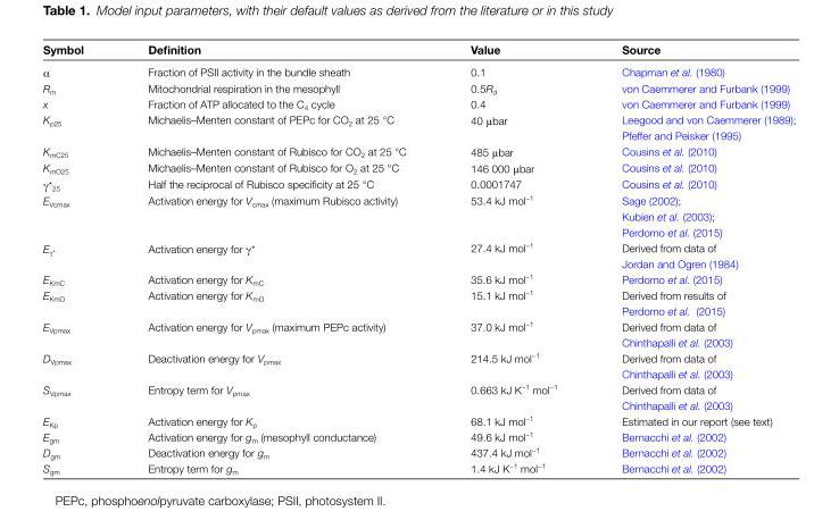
<table><thead><tr><td>Symbol</td><td>Definition</td><td>Value</td><td>Source</td></tr></thead><tbody><tr><td>α</td><td>Fraction of PSII activity in the bundle sheath</td><td>0.1</td><td>Chapman et al. (1980)</td></tr><tr><td>R<sub>m</sub></td><td>Mitochondrial respiration in the mesophyll</td><td>0.5R<sub>d</sub></td><td>von Caemmerer and Furbank (1999)</td></tr><tr><td>x</td><td>Fraction of ATP allocated to the C<sub>4</sub> cycle</td><td>0.4</td><td>von Caemmerer and Furbank (1999)</td></tr><tr><td>K<sub>p25</sub></td><td>Michaelis–Menten constant of PEPc for CO<sub>2</sub> at 25 °C</td><td>40 μbar</td><td>Leegood and von Caemmerer (1989); Pfeffer and Peisker (1995)</td></tr><tr><td>K<sub>mC25</sub></td><td>Michaelis–Menten constant of Rubisco for CO<sub>2</sub> at 25 °C</td><td>485 μbar</td><td>Cousins et al. (2010)</td></tr><tr><td>K<sub>mO25</sub></td><td>Michaelis–Menten constant of Rubisco for O<sub>2</sub> at 25 °C</td><td>146 000 μbar</td><td>Cousins et al. (2010)</td></tr><tr><td>γ*<sub>25</sub></td><td>Half the reciprocal of Rubisco specificity at 25 °C</td><td>0.0001747</td><td>Cousins et al. (2010)</td></tr><tr><td>E<sub>Vcmax</sub></td><td>Activation energy for V<sub>cmax</sub> (maximum Rubisco activity)</td><td>53.4 kJ mol<sup>−1</sup></td><td>Sage (2002); Kubien et al. (2003); Perdomo et al. (2015)</td></tr><tr><td>E<sub>γ*</sub></td><td>Activation energy for γ*</td><td>27.4 kJ mol<sup>−1</sup></td><td>Derived from data of Jordan and Ogren (1984)</td></tr><tr><td>E<sub>KmC</sub></td><td>Activation energy for K<sub>mC</sub></td><td>35.6 kJ mol<sup>−1</sup></td><td>Perdomo et al. (2015)</td></tr><tr><td>E<sub>KmO</sub></td><td>Activation energy for K<sub>mO</sub></td><td>15.1 kJ mol<sup>−1</sup></td><td>Derived from results of Perdomo et al. (2015)</td></tr><tr><td>E<sub>Vpmax</sub></td><td>Activation energy for V<sub>pmax</sub> (maximum PEPc activity)</td><td>37.0 kJ mol<sup>−1</sup></td><td>Derived from data of Chinthapalli et al. (2003)</td></tr><tr><td>D<sub>Vpmax</sub></td><td>Deactivation energy for V<sub>pmax</sub></td><td>214.5 kJ mol<sup>−1</sup></td><td>Derived from data of Chinthapalli et al. (2003)</td></tr><tr><td>S<sub>Vpmax</sub></td><td>Entropy term for V<sub>pmax</sub></td><td>0.663 kJ K<sup>−1</sup> mol<sup>−1</sup></td><td>Derived from data of Chinthapalli et al. (2003)</td></tr><tr><td>E<sub>Kp</sub></td><td>Activation energy for K<sub>p</sub></td><td>68.1 kJ mol<sup>−1</sup></td><td>Estimated in our report (see text)</td></tr><tr><td>E<sub>gm</sub></td><td>Activation energy for g<sub>m</sub> (mesophyll conductance)</td><td>49.6 kJ mol<sup>−1</sup></td><td>Bernacchi et al. (2002)</td></tr><tr><td>D<sub>gm</sub></td><td>Deactivation energy for g<sub>m</sub></td><td>437.4 kJ mol<sup>−1</sup></td><td>Bernacchi et al. (2002)</td></tr><tr><td>S<sub>gm</sub></td><td>Entropy term for g<sub>m</sub></td><td>1.4 kJ K<sup>−1</sup> mol<sup>−1</sup></td><td>Bernacchi et al. (2002)</td></tr></tbody></table>